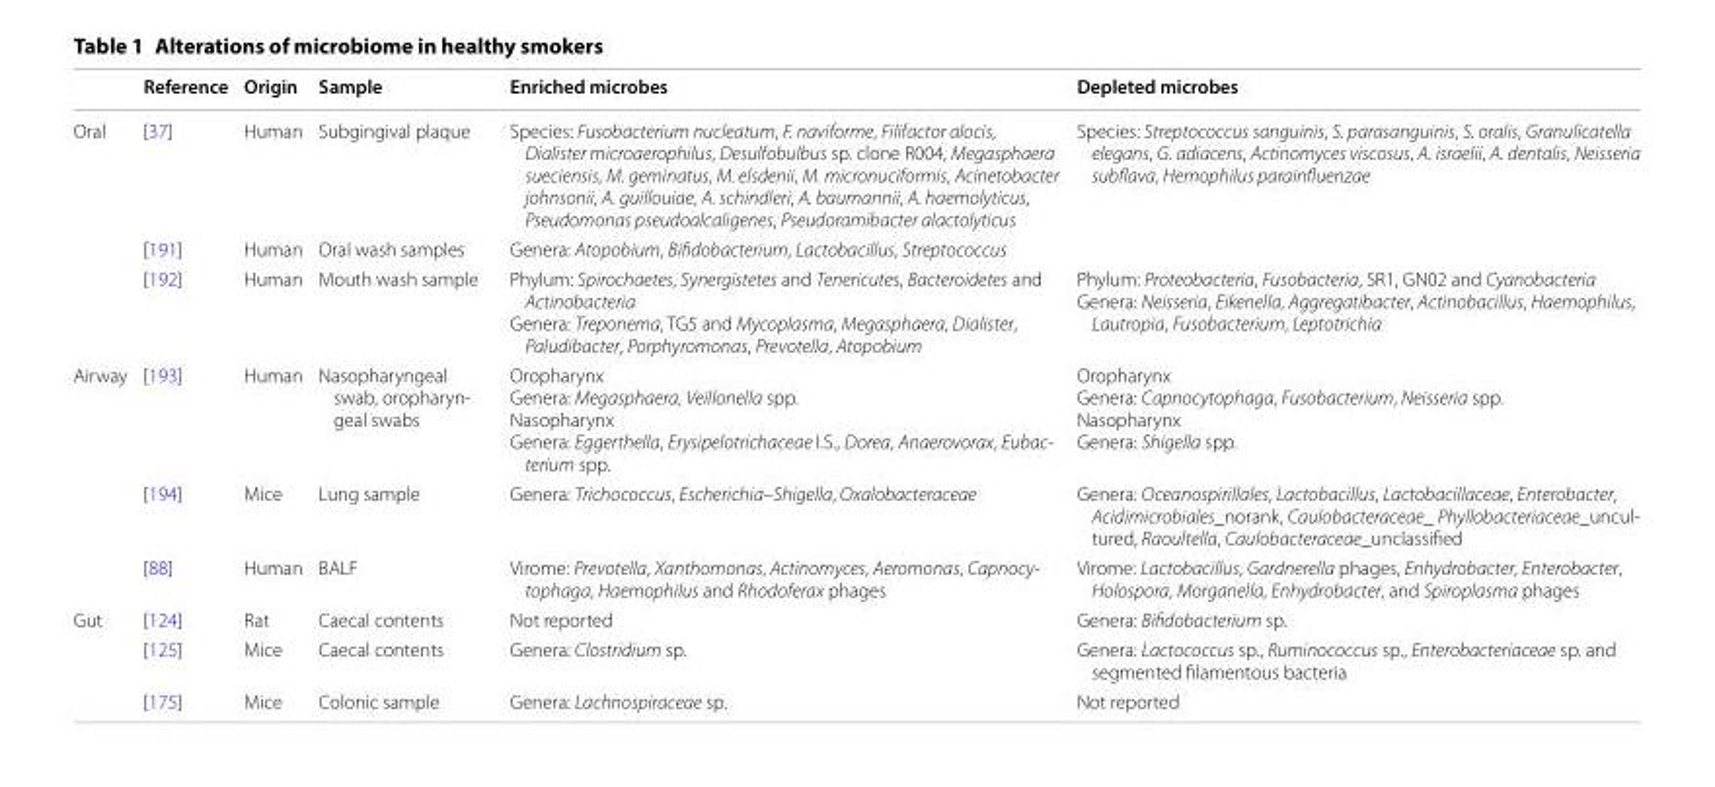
<table><thead><tr><td></td><td>Reference</td><td>Origin</td><td>Sample</td><td>Enriched microbes</td><td>Depleted microbes</td></tr></thead><tbody><tr><td rowspan="3">Oral</td><td>[37]</td><td>Human</td><td>Subgingival plaque</td><td>Species: Fusobacterium nucleatum, F. naviforme, Filifactor alocis, Dialister microaerophilus, Desulfobulbus sp. clone R004, Megasphaera sueciensis, M. geminatus, M. elsdenii, M. micronuciformis, Acinetobacter johnsonii, A. guillouiae, A. schindleri, A. baumannii, A. haemolyticus, Pseudomonas pseudoalcaligenes, Pseudoramibacter alactolyticus</td><td>Species: Streptococcus sanguinis, S. parasanguinis, S. oralis, Granulicatella elegans, G. adiacens, Actinomyces viscosus, A. israelii, A. dentalis, Neisseria subflava, Hemophilus parainfluenzae</td></tr><tr><td>[191]</td><td>Human</td><td>Oral wash samples</td><td>Genera: Atopobium, Bifidobacterium, Lactobacillus, Streptococcus</td><td></td></tr><tr><td>[192]</td><td>Human</td><td>Mouth wash sample</td><td>Phylum: Spirochaetes, Synergistetes and Tenericutes, Bacteroidetes and Actinobacteria Genera: Treponema, TG5 and Mycoplasma, Megasphaera, Dialister, Paludibacter, Porphyromonas, Prevotella, Atopobium</td><td>Phylum: Proteobacteria, Fusobacteria, SR1, GN02 and Cyanobacteria Genera: Neisseria, Eikenella, Aggregatibacter, Actinobacillus, Haemophilus, Lautropia, Fusobacterium, Leptotrichia</td></tr><tr><td rowspan="3">Airway</td><td>[193]</td><td>Human</td><td>Nasopharyngeal swab, oropharyn- geal swabs</td><td>Oropharynx Genera: Megasphaera, Veillonella spp. Nasopharynx Genera: Eggerthella, Erysipelotrichaceae I.S., Dorea, Anaerovorax, Eubac- terium spp.</td><td>Oropharynx Genera: Capnocytophaga, Fusobacterium, Neisseria spp. Nasopharynx Genera: Shigella spp.</td></tr><tr><td>[194]</td><td>Mice</td><td>Lung sample</td><td>Genera: Trichococcus, Escherichia–Shigella, Oxalobacteraceae</td><td>Genera: Oceanospirillales, Lactobacillus, Lactobacillaceae, Enterobacter, Acidimicrobiales_norank, Caulobacteraceae_ Phyllobacteriaceae_uncul- tured, Raoultella, Caulobacteraceae_unclassified</td></tr><tr><td>[88]</td><td>Human</td><td>BALF</td><td>Virome: Prevotella, Xanthomonas, Actinomyces, Aeromonas, Capnocy- tophaga, Haemophilus and Rhodoferax phages</td><td>Virome: Lactobacillus, Gardnerella phages, Enhydrobacter, Enterobacter, Holospora, Morganella, Enhydrobacter, and Spiroplasma phages</td></tr><tr><td rowspan="3">Gut</td><td>[124]</td><td>Rat</td><td>Caecal contents</td><td>Not reported</td><td>Genera: Bifidobacterium sp.</td></tr><tr><td>[125]</td><td>Mice</td><td>Caecal contents</td><td>Genera: Clostridium sp.</td><td>Genera: Lactococcus sp., Ruminococcus sp., Enterobacteriaceae sp. and segmented filamentous bacteria</td></tr><tr><td>[175]</td><td>Mice</td><td>Colonic sample</td><td>Genera: Lachnospiraceae sp.</td><td>Not reported</td></tr></tbody></table>